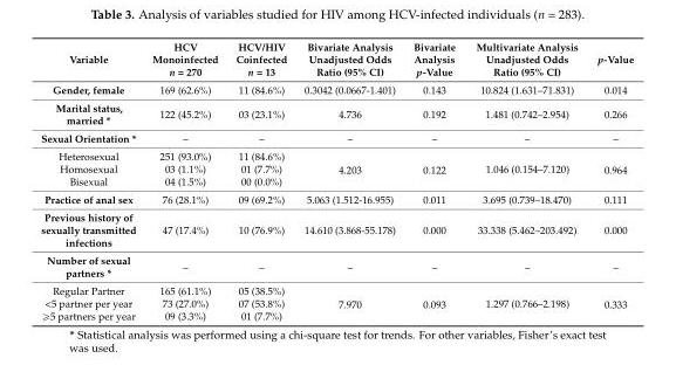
<table><thead><tr><td>Variable</td><td>HCV Monoinfected n = 270</td><td>HCV/HIV Coinfected n = 13</td><td>Bivariate Analysis Unadjusted Odds Ratio (95% CI)</td><td>Bivariate Analysis p-Value</td><td>Multivariate Analysis Unadjusted Odds Ratio (95% CI)</td><td>p-Value</td></tr></thead><tbody><tr><td>Gender, female</td><td>169 (62.6%)</td><td>11 (84.6%)</td><td>0.3042 (0.0667-1.401)</td><td>0.143</td><td>10.824 (1.631–71.831)</td><td>0.014</td></tr><tr><td>Marital status, married *</td><td>122 (45.2%)</td><td>03 (23.1%)</td><td>4.736</td><td>0.192</td><td>1.481 (0.742–2.954)</td><td>0.266</td></tr><tr><td>Sexual Orientation *</td><td>–</td><td>–</td><td>–</td><td>–</td><td>–</td><td>–</td></tr><tr><td>Heterosexual</td><td>251 (93.0%)</td><td>11 (84.6%)</td><td rowspan="3">4.203</td><td rowspan="3">0.122</td><td rowspan="3">1.046 (0.154–7.120)</td><td rowspan="3">0.964</td></tr><tr><td>Homosexual</td><td>03 (1.1%)</td><td>01 (7.7%)</td></tr><tr><td>Bisexual</td><td>04 (1.5%)</td><td>00 (0.0%)</td></tr><tr><td>Practice of anal sex</td><td>76 (28.1%)</td><td>09 (69.2%)</td><td>5.063 (1.512-16.955)</td><td>0.011</td><td>3.695 (0.739–18.470)</td><td>0.111</td></tr><tr><td>Previous history of sexually transmitted infections</td><td>47 (17.4%)</td><td>10 (76.9%)</td><td>14.610 (3.868-55.178)</td><td>0.000</td><td>33.338 (5.462–203.492)</td><td>0.000</td></tr><tr><td>Number of sexual partners *</td><td>–</td><td>–</td><td>–</td><td>–</td><td>–</td><td>–</td></tr><tr><td>Regular Partner</td><td>165 (61.1%)</td><td>05 (38.5%)</td><td rowspan="3">7.970</td><td rowspan="3">0.093</td><td rowspan="3">1.297 (0.766–2.198)</td><td rowspan="3">0.333</td></tr><tr><td>&lt;5 partner per year</td><td>73 (27.0%)</td><td>07 (53.8%)</td></tr><tr><td>ě5 partners per year</td><td>09 (3.3%)</td><td>01 (7.7%)</td></tr></tbody></table>